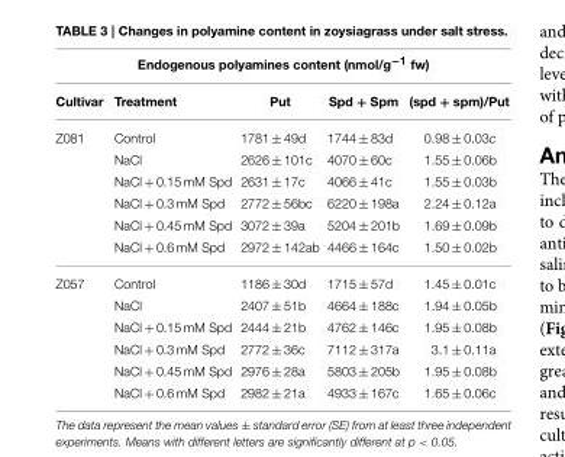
<table><thead><tr><td colspan="5">Endogenous polyamines content (nmol/g<sup>−1</sup> fw)</td></tr><tr><td>Cultivar</td><td>Treatment</td><td>Put</td><td>Spd + Spm</td><td>(spd + spm)/Put</td></tr></thead><tbody><tr><td rowspan="6">Z081</td><td>Control</td><td>1781 ± 49d</td><td>1744 ± 83d</td><td>0.98 ± 0.03c</td></tr><tr><td>NaCl</td><td>2626 ± 101c</td><td>4070 ± 60c</td><td>1.55 ± 0.06b</td></tr><tr><td>NaCl + 0.15 mM Spd</td><td>2631 ± 17c</td><td>4066 ± 41c</td><td>1.55 ± 0.03b</td></tr><tr><td>NaCl + 0.3 mM Spd</td><td>2772 ± 56bc</td><td>6220 ± 198a</td><td>2.24 ± 0.12a</td></tr><tr><td>NaCl + 0.45 mM Spd</td><td>3072 ± 39a</td><td>5204 ± 201b</td><td>1.69 ± 0.09b</td></tr><tr><td>NaCl + 0.6 mM Spd</td><td>2972 ± 142ab</td><td>4466 ± 164c</td><td>1.50 ± 0.02b</td></tr><tr><td rowspan="6">Z057</td><td>Control</td><td>1186 ± 30d</td><td>1715 ± 57d</td><td>1.45 ± 0.01c</td></tr><tr><td>NaCl</td><td>2407 ± 51b</td><td>4664 ± 188c</td><td>1.94 ± 0.05b</td></tr><tr><td>NaCl + 0.15 mM Spd</td><td>2444 ± 21b</td><td>4762 ± 146c</td><td>1.95 ± 0.08b</td></tr><tr><td>NaCl + 0.3 mM Spd</td><td>2772 ± 36c</td><td>7112 ± 317a</td><td>3.1 ± 0.11a</td></tr><tr><td>NaCl + 0.45 mM Spd</td><td>2976 ± 28a</td><td>5803 ± 205b</td><td>1.95 ± 0.08b</td></tr><tr><td>NaCl + 0.6 mM Spd</td><td>2982 ± 21a</td><td>4933 ± 167c</td><td>1.65 ± 0.06c</td></tr></tbody></table>